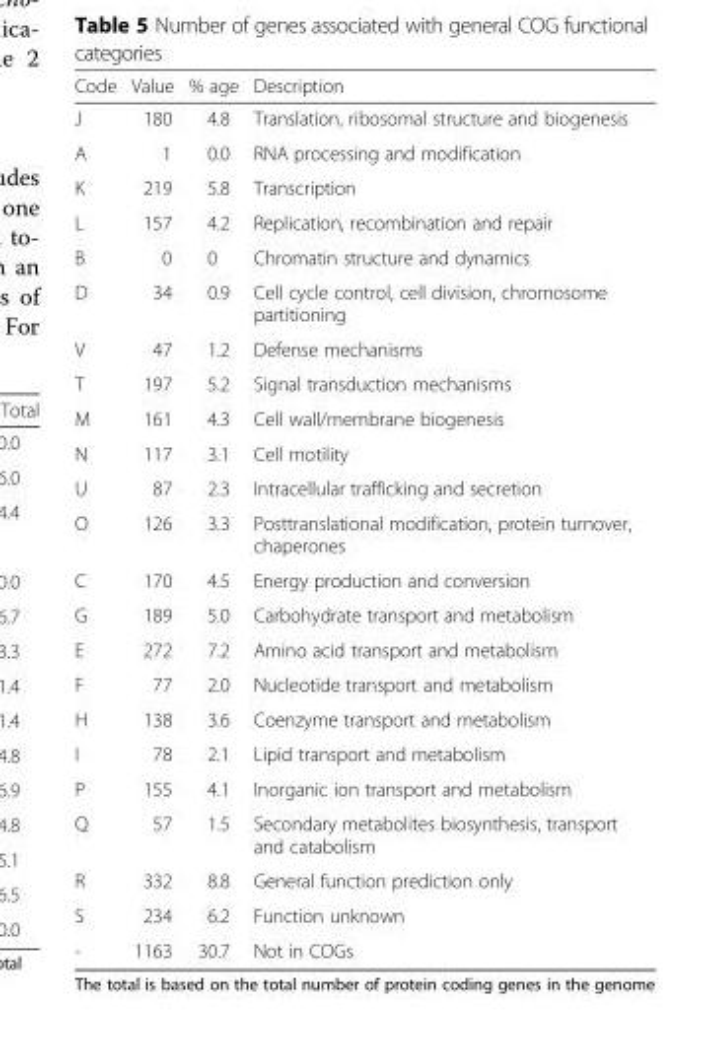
<table><thead><tr><td>Code</td><td>Value</td><td>% age</td><td>Description</td></tr></thead><tbody><tr><td>J</td><td>180</td><td>4.8</td><td>Translation, ribosomal structure and biogenesis</td></tr><tr><td>A</td><td>1</td><td>0.0</td><td>RNA processing and modification</td></tr><tr><td>K</td><td>219</td><td>5.8</td><td>Transcription</td></tr><tr><td>L</td><td>157</td><td>4.2</td><td>Replication, recombination and repair</td></tr><tr><td>B</td><td>0</td><td>0</td><td>Chromatin structure and dynamics</td></tr><tr><td>D</td><td>34</td><td>0.9</td><td>Cell cycle control, cell division, chromosome partitioning</td></tr><tr><td>V</td><td>47</td><td>1.2</td><td>Defense mechanisms</td></tr><tr><td>T</td><td>197</td><td>5.2</td><td>Signal transduction mechanisms</td></tr><tr><td>M</td><td>161</td><td>4.3</td><td>Cell wall/membrane biogenesis</td></tr><tr><td>N</td><td>117</td><td>3.1</td><td>Cell motility</td></tr><tr><td>U</td><td>87</td><td>2.3</td><td>Intracellular trafficking and secretion</td></tr><tr><td>O</td><td>126</td><td>3.3</td><td>Posttranslational modification, protein turnover, chaperones</td></tr><tr><td>C</td><td>170</td><td>4.5</td><td>Energy production and conversion</td></tr><tr><td>G</td><td>189</td><td>5.0</td><td>Carbohydrate transport and metabolism</td></tr><tr><td>E</td><td>272</td><td>7.2</td><td>Amino acid transport and metabolism</td></tr><tr><td>F</td><td>77</td><td>2.0</td><td>Nucleotide transport and metabolism</td></tr><tr><td>H</td><td>138</td><td>3.6</td><td>Coenzyme transport and metabolism</td></tr><tr><td>I</td><td>78</td><td>2.1</td><td>Lipid transport and metabolism</td></tr><tr><td>P</td><td>155</td><td>4.1</td><td>Inorganic ion transport and metabolism</td></tr><tr><td>Q</td><td>57</td><td>1.5</td><td>Secondary metabolites biosynthesis, transport and catabolism</td></tr><tr><td>R</td><td>332</td><td>8.8</td><td>General function prediction only</td></tr><tr><td>S</td><td>234</td><td>6.2</td><td>Function unknown</td></tr><tr><td>-</td><td>1163</td><td>30.7</td><td>Not in COGs</td></tr></tbody></table>